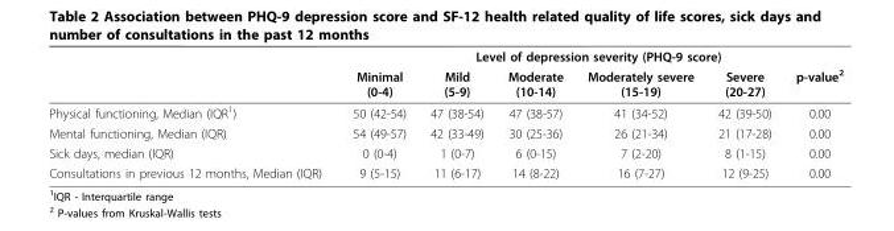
<table><thead><tr><td rowspan="2"></td><td colspan="6">Level of depression severity (PHQ-9 score)</td></tr><tr><td>Minimal (0-4)</td><td>Mild (5-9)</td><td>Moderate (10-14)</td><td>Moderately severe (15-19)</td><td>Severe (20-27)</td><td>p-value<sup>2</sup></td></tr></thead><tbody><tr><td>Physical functioning, Median (IQR<sup>1</sup>)</td><td>50 (42-54)</td><td>47 (38-54)</td><td>47 (38-57)</td><td>41 (34-52)</td><td>42 (39-50)</td><td>0.00</td></tr><tr><td>Mental functioning, Median (IQR)</td><td>54 (49-57)</td><td>42 (33-49)</td><td>30 (25-36)</td><td>26 (21-34)</td><td>21 (17-28)</td><td>0.00</td></tr><tr><td>Sick days, median (IQR)</td><td>0 (0-4)</td><td>1 (0-7)</td><td>6 (0-15)</td><td>7 (2-20)</td><td>8 (1-15)</td><td>0.00</td></tr><tr><td>Consultations in previous 12 months, Median (IQR)</td><td>9 (5-15)</td><td>11 (6-17)</td><td>14 (8-22)</td><td>16 (7-27)</td><td>12 (9-25)</td><td>0.00</td></tr></tbody></table>